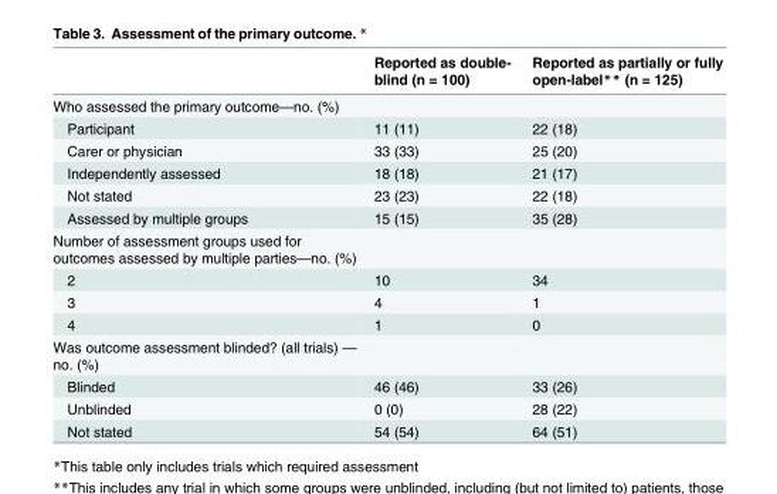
<table><thead><tr><td></td><td>Reported as double- blind (n = 100)</td><td>Reported as partially or fully open-label** (n = 125)</td></tr></thead><tbody><tr><td colspan="3">Who assessed the primary outcome—no. (%)</td></tr><tr><td>Participant</td><td>11 (11)</td><td>22 (18)</td></tr><tr><td>Carer or physician</td><td>33 (33)</td><td>25 (20)</td></tr><tr><td>Independently assessed</td><td>18 (18)</td><td>21 (17)</td></tr><tr><td>Not stated</td><td>23 (23)</td><td>22 (18)</td></tr><tr><td>Assessed by multiple groups</td><td>15 (15)</td><td>35 (28)</td></tr><tr><td colspan="3">Number of assessment groups used for outcomes assessed by multiple parties—no. (%)</td></tr><tr><td>2</td><td>10</td><td>34</td></tr><tr><td>3</td><td>4</td><td>1</td></tr><tr><td>4</td><td>1</td><td>0</td></tr><tr><td colspan="3">Was outcome assessment blinded? (all trials) — no. (%)</td></tr><tr><td>Blinded</td><td>46 (46)</td><td>33 (26)</td></tr><tr><td>Unblinded</td><td>0 (0)</td><td>28 (22)</td></tr><tr><td>Not stated</td><td>54 (54)</td><td>64 (51)</td></tr></tbody></table>